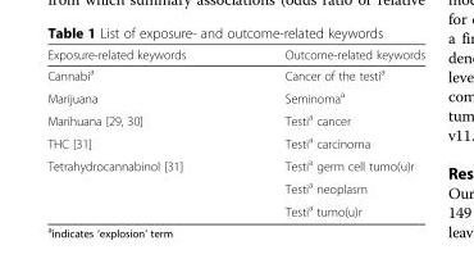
<table><thead><tr><td>Exposure-related keywords</td><td>Outcome-related keywords</td></tr></thead><tbody><tr><td>Cannabi<sup>a</sup></td><td>Cancer of the testi<sup>a</sup></td></tr><tr><td>Marijuana</td><td>Seminoma<sup>a</sup></td></tr><tr><td>Marihuana [29, 30]</td><td>Testi<sup>a</sup> cancer</td></tr><tr><td>THC [31]</td><td>Testi<sup>a</sup> carcinoma</td></tr><tr><td rowspan="3">Tetrahydrocannabinol [31]</td><td>Testi<sup>a</sup> germ cell tumo(u)r</td></tr><tr><td>Testi<sup>a</sup> neoplasm</td></tr><tr><td>Testi<sup>a</sup> tumo(u)r</td></tr></tbody></table>